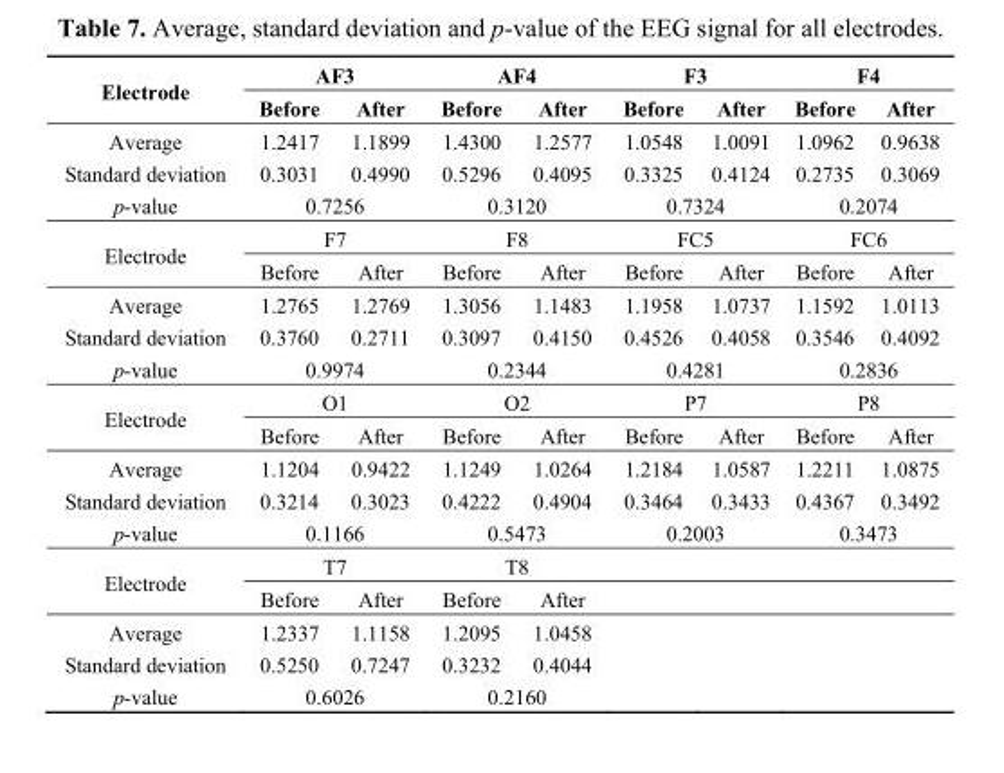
<table><thead><tr><td rowspan="2">Electrode</td><td colspan="2">AF3</td><td colspan="2">AF4</td><td colspan="2">F3</td><td colspan="2">F4</td></tr><tr><td>Before</td><td>After</td><td>Before</td><td>After</td><td>Before</td><td>After</td><td>Before</td><td>After</td></tr></thead><tbody><tr><td>Average</td><td>1.2417</td><td>1.1899</td><td>1.4300</td><td>1.2577</td><td>1.0548</td><td>1.0091</td><td>1.0962</td><td>0.9638</td></tr><tr><td>Standard deviation</td><td>0.3031</td><td>0.4990</td><td>0.5296</td><td>0.4095</td><td>0.3325</td><td>0.4124</td><td>0.2735</td><td>0.3069</td></tr><tr><td>p-value</td><td colspan="2">0.7256</td><td colspan="2">0.3120</td><td colspan="2">0.7324</td><td colspan="2">0.2074</td></tr><tr><td rowspan="2">Electrode</td><td colspan="2">F7</td><td colspan="2">F8</td><td colspan="2">FC5</td><td colspan="2">FC6</td></tr><tr><td>Before</td><td>After</td><td>Before</td><td>After</td><td>Before</td><td>After</td><td>Before</td><td>After</td></tr><tr><td>Average</td><td>1.2765</td><td>1.2769</td><td>1.3056</td><td>1.1483</td><td>1.1958</td><td>1.0737</td><td>1.1592</td><td>1.0113</td></tr><tr><td>Standard deviation</td><td>0.3760</td><td>0.2711</td><td>0.3097</td><td>0.4150</td><td>0.4526</td><td>0.4058</td><td>0.3546</td><td>0.4092</td></tr><tr><td>p-value</td><td colspan="2">0.9974</td><td colspan="2">0.2344</td><td colspan="2">0.4281</td><td colspan="2">0.2836</td></tr><tr><td rowspan="2">Electrode</td><td colspan="2">O1</td><td colspan="2">O2</td><td colspan="2">P7</td><td colspan="2">P8</td></tr><tr><td>Before</td><td>After</td><td>Before</td><td>After</td><td>Before</td><td>After</td><td>Before</td><td>After</td></tr><tr><td>Average</td><td>1.1204</td><td>0.9422</td><td>1.1249</td><td>1.0264</td><td>1.2184</td><td>1.0587</td><td>1.2211</td><td>1.0875</td></tr><tr><td>Standard deviation</td><td>0.3214</td><td>0.3023</td><td>0.4222</td><td>0.4904</td><td>0.3464</td><td>0.3433</td><td>0.4367</td><td>0.3492</td></tr><tr><td>p-value</td><td colspan="2">0.1166</td><td colspan="2">0.5473</td><td colspan="2">0.2003</td><td colspan="2">0.3473</td></tr><tr><td rowspan="2">Electrode</td><td colspan="2">T7</td><td colspan="2">T8</td><td colspan="2"></td><td colspan="2"></td></tr><tr><td>Before</td><td>After</td><td>Before</td><td>After</td><td></td><td></td><td></td><td></td></tr><tr><td>Average</td><td>1.2337</td><td>1.1158</td><td>1.2095</td><td>1.0458</td><td></td><td></td><td></td><td></td></tr><tr><td>Standard deviation</td><td>0.5250</td><td>0.7247</td><td>0.3232</td><td>0.4044</td><td></td><td></td><td></td><td></td></tr><tr><td>p-value</td><td colspan="2">0.6026</td><td colspan="2">0.2160</td><td></td><td></td><td colspan="2"></td></tr></tbody></table>